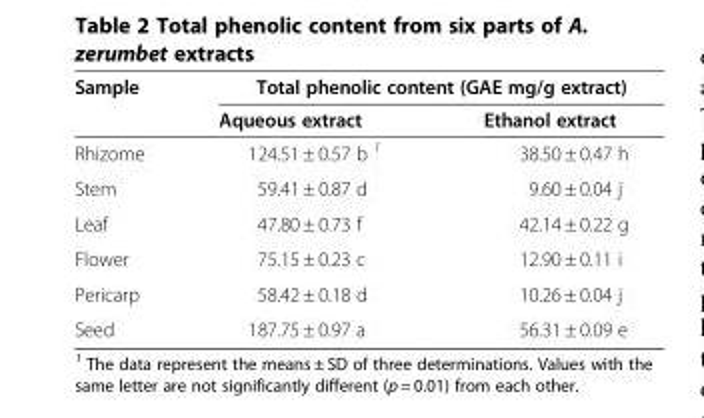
<table><thead><tr><td rowspan="2">Sample</td><td colspan="2">Total phenolic content (GAE mg/g extract)</td></tr><tr><td>Aqueous extract</td><td>Ethanol extract</td></tr></thead><tbody><tr><td>Rhizome</td><td>124.51 ± 0.57 b <sup>1</sup></td><td>38.50 ± 0.47 h</td></tr><tr><td>Stem</td><td>59.41 ± 0.87 d</td><td>9.60 ± 0.04 j</td></tr><tr><td>Leaf</td><td>47.80 ± 0.73 f</td><td>42.14 ± 0.22 g</td></tr><tr><td>Flower</td><td>75.15 ± 0.23 c</td><td>12.90 ± 0.11 i</td></tr><tr><td>Pericarp</td><td>58.42 ± 0.18 d</td><td>10.26 ± 0.04 j</td></tr><tr><td>Seed</td><td>187.75 ± 0.97 a</td><td>56.31 ± 0.09 e</td></tr></tbody></table>